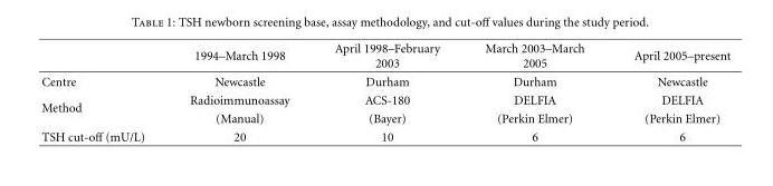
<table><thead><tr><td></td><td>1994–March 1998</td><td>April 1998–February 2003</td><td>March 2003–March 2005</td><td>April 2005–present</td></tr></thead><tbody><tr><td>Centre</td><td>Newcastle</td><td>Durham</td><td>Durham</td><td>Newcastle</td></tr><tr><td rowspan="2">Method</td><td>Radioimmunoassay</td><td>ACS-180</td><td>DELFIA</td><td>DELFIA</td></tr><tr><td>(Manual)</td><td>(Bayer)</td><td>(Perkin Elmer)</td><td>(Perkin Elmer)</td></tr><tr><td>TSH cut-off (mU/L)</td><td>20</td><td>10</td><td>6</td><td>6</td></tr></tbody></table>